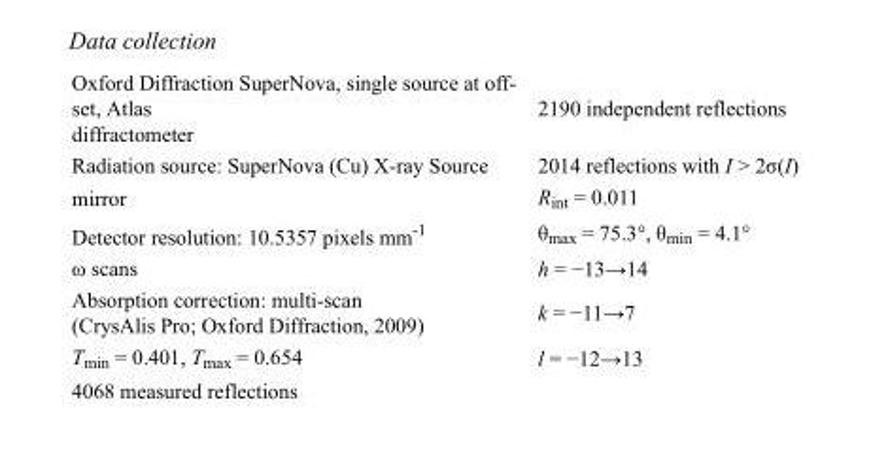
<table><tbody><tr><td>Oxford Diffraction SuperNova, single source at off- set, Atlas diffractometer</td><td>2190 independent reflections</td></tr><tr><td>Radiation source: SuperNova (Cu) X-ray Source</td><td>2014 reflections with I &gt; 2σ(I)</td></tr><tr><td>mirror</td><td>R<sub>int</sub> = 0.011</td></tr><tr><td>Detector resolution: 10.5357 pixels mm<sup>-1</sup></td><td>θ<sub>max</sub> = 75.3°, θ<sub>min</sub> = 4.1°</td></tr><tr><td>ω scans</td><td>h = −13→14</td></tr><tr><td>Absorption correction: multi-scan (CrysAlis Pro; Oxford Diffraction, 2009)</td><td>k = −11→7</td></tr><tr><td>T<sub>min</sub> = 0.401, T<sub>max</sub> = 0.654</td><td>l = −12→13</td></tr><tr><td>4068 measured reflections</td><td></td></tr></tbody></table>